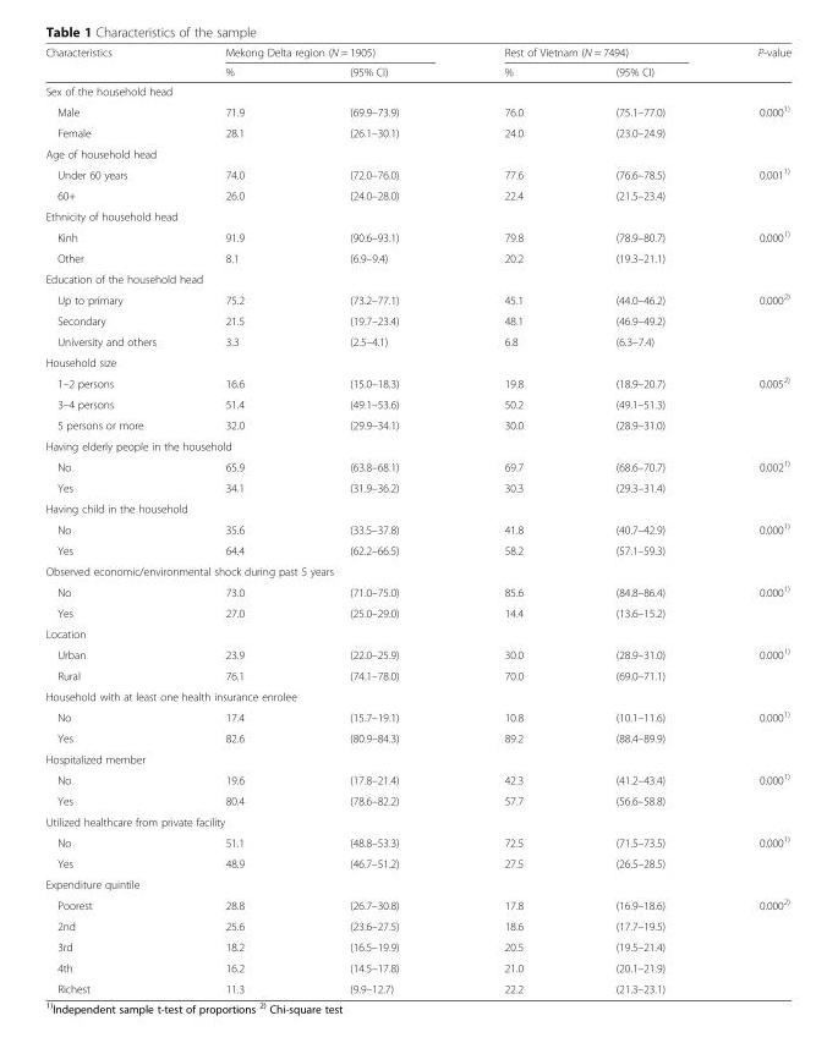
<table><thead><tr><td rowspan="2">Characteristics</td><td colspan="2">Mekong Delta region (N = 1905)</td><td colspan="2">Rest of Vietnam (N = 7494)</td><td rowspan="2">P-value</td></tr><tr><td>%</td><td>(95% CI)</td><td>%</td><td>(95% CI)</td></tr></thead><tbody><tr><td colspan="6">Sex of the household head</td></tr><tr><td>Male</td><td>71.9</td><td>(69.9–73.9)</td><td>76.0</td><td>(75.1–77.0)</td><td>0.000<sup>1)</sup></td></tr><tr><td>Female</td><td>28.1</td><td>(26.1–30.1)</td><td>24.0</td><td>(23.0–24.9)</td><td></td></tr><tr><td colspan="6">Age of household head</td></tr><tr><td>Under 60 years</td><td>74.0</td><td>(72.0–76.0)</td><td>77.6</td><td>(76.6–78.5)</td><td>0.001<sup>1)</sup></td></tr><tr><td>60+</td><td>26.0</td><td>(24.0–28.0)</td><td>22.4</td><td>(21.5–23.4)</td><td></td></tr><tr><td colspan="6">Ethnicity of household head</td></tr><tr><td>Kinh</td><td>91.9</td><td>(90.6–93.1)</td><td>79.8</td><td>(78.9–80.7)</td><td>0.000<sup>1)</sup></td></tr><tr><td>Other</td><td>8.1</td><td>(6.9–9.4)</td><td>20.2</td><td>(19.3–21.1)</td><td></td></tr><tr><td colspan="6">Education of the household head</td></tr><tr><td>Up to primary</td><td>75.2</td><td>(73.2–77.1)</td><td>45.1</td><td>(44.0–46.2)</td><td>0.000<sup>2)</sup></td></tr><tr><td>Secondary</td><td>21.5</td><td>(19.7–23.4)</td><td>48.1</td><td>(46.9–49.2)</td><td></td></tr><tr><td>University and others</td><td>3.3</td><td>(2.5–4.1)</td><td>6.8</td><td>(6.3–7.4)</td><td></td></tr><tr><td colspan="6">Household size</td></tr><tr><td>1–2 persons</td><td>16.6</td><td>(15.0–18.3)</td><td>19.8</td><td>(18.9–20.7)</td><td>0.005<sup>2)</sup></td></tr><tr><td>3–4 persons</td><td>51.4</td><td>(49.1–53.6)</td><td>50.2</td><td>(49.1–51.3)</td><td></td></tr><tr><td>5 persons or more</td><td>32.0</td><td>(29.9–34.1)</td><td>30.0</td><td>(28.9–31.0)</td><td></td></tr><tr><td colspan="6">Having elderly people in the household</td></tr><tr><td>No</td><td>65.9</td><td>(63.8–68.1)</td><td>69.7</td><td>(68.6–70.7)</td><td>0.002<sup>1)</sup></td></tr><tr><td>Yes</td><td>34.1</td><td>(31.9–36.2)</td><td>30.3</td><td>(29.3–31.4)</td><td></td></tr><tr><td colspan="6">Having child in the household</td></tr><tr><td>No</td><td>35.6</td><td>(33.5–37.8)</td><td>41.8</td><td>(40.7–42.9)</td><td>0.000<sup>1)</sup></td></tr><tr><td>Yes</td><td>64.4</td><td>(62.2–66.5)</td><td>58.2</td><td>(57.1–59.3)</td><td></td></tr><tr><td colspan="6">Observed economic/environmental shock during past 5 years</td></tr><tr><td>No</td><td>73.0</td><td>(71.0–75.0)</td><td>85.6</td><td>(84.8–86.4)</td><td>0.000<sup>1)</sup></td></tr><tr><td>Yes</td><td>27.0</td><td>(25.0–29.0)</td><td>14.4</td><td>(13.6–15.2)</td><td></td></tr><tr><td colspan="6">Location</td></tr><tr><td>Urban</td><td>23.9</td><td>(22.0–25.9)</td><td>30.0</td><td>(28.9–31.0)</td><td>0.000<sup>1)</sup></td></tr><tr><td>Rural</td><td>76.1</td><td>(74.1–78.0)</td><td>70.0</td><td>(69.0–71.1)</td><td></td></tr><tr><td colspan="6">Household with at least one health insurance enrolee</td></tr><tr><td>No</td><td>17.4</td><td>(15.7–19.1)</td><td>10.8</td><td>(10.1–11.6)</td><td>0.000<sup>1)</sup></td></tr><tr><td>Yes</td><td>82.6</td><td>(80.9–84.3)</td><td>89.2</td><td>(88.4–89.9)</td><td></td></tr><tr><td colspan="6">Hospitalized member</td></tr><tr><td>No</td><td>19.6</td><td>(17.8–21.4)</td><td>42.3</td><td>(41.2–43.4)</td><td>0.000<sup>1)</sup></td></tr><tr><td>Yes</td><td>80.4</td><td>(78.6–82.2)</td><td>57.7</td><td>(56.6–58.8)</td><td></td></tr><tr><td colspan="6">Utilized healthcare from private facility</td></tr><tr><td>No</td><td>51.1</td><td>(48.8–53.3)</td><td>72.5</td><td>(71.5–73.5)</td><td>0.000<sup>1)</sup></td></tr><tr><td>Yes</td><td>48.9</td><td>(46.7–51.2)</td><td>27.5</td><td>(26.5–28.5)</td><td></td></tr><tr><td colspan="6">Expenditure quintile</td></tr><tr><td>Poorest</td><td>28.8</td><td>(26.7–30.8)</td><td>17.8</td><td>(16.9–18.6)</td><td>0.000<sup>2)</sup></td></tr><tr><td>2nd</td><td>25.6</td><td>(23.6–27.5)</td><td>18.6</td><td>(17.7–19.5)</td><td></td></tr><tr><td>3rd</td><td>18.2</td><td>(16.5–19.9)</td><td>20.5</td><td>(19.5–21.4)</td><td></td></tr><tr><td>4th</td><td>16.2</td><td>(14.5–17.8)</td><td>21.0</td><td>(20.1–21.9)</td><td></td></tr><tr><td>Richest</td><td>11.3</td><td>(9.9–12.7)</td><td>22.2</td><td>(21.3–23.1)</td><td></td></tr></tbody></table>